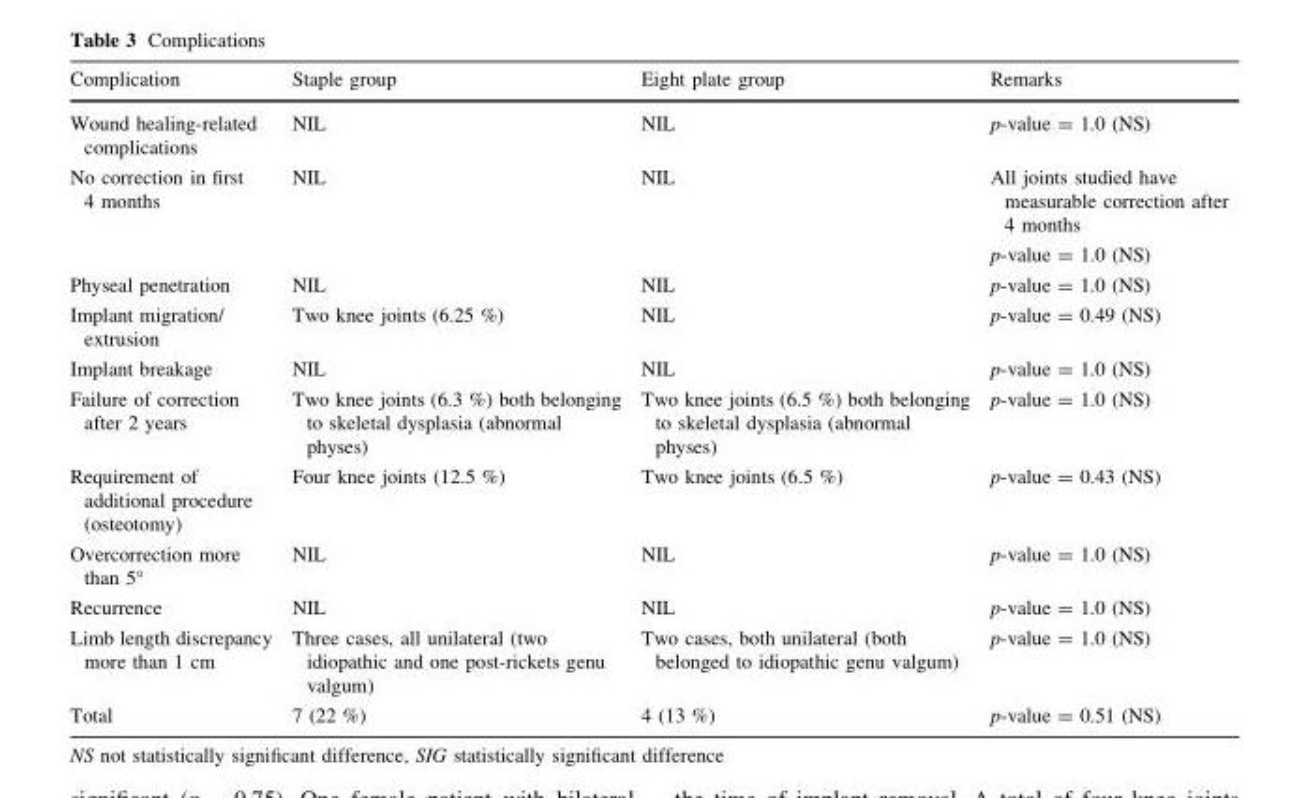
<table><thead><tr><td>Complication</td><td>Staple group</td><td>Eight plate group</td><td>Remarks</td></tr></thead><tbody><tr><td>Wound healing-related complications</td><td>NIL</td><td>NIL</td><td>p-value = 1.0 (NS)</td></tr><tr><td rowspan="2">No correction in first 4 months</td><td rowspan="2">NIL</td><td rowspan="2">NIL</td><td>All joints studied have measurable correction after 4 months</td></tr><tr><td>p-value = 1.0 (NS)</td></tr><tr><td>Physeal penetration</td><td>NIL</td><td>NIL</td><td>p-value = 1.0 (NS)</td></tr><tr><td>Implant migration/ extrusion</td><td>Two knee joints (6.25 %)</td><td>NIL</td><td>p-value = 0.49 (NS)</td></tr><tr><td>Implant breakage</td><td>NIL</td><td>NIL</td><td>p-value = 1.0 (NS)</td></tr><tr><td>Failure of correction after 2 years</td><td>Two knee joints (6.3 %) both belonging to skeletal dysplasia (abnormal physes)</td><td>Two knee joints (6.5 %) both belonging to skeletal dysplasia (abnormal physes)</td><td>p-value = 1.0 (NS)</td></tr><tr><td>Requirement of additional procedure (osteotomy)</td><td>Four knee joints (12.5 %)</td><td>Two knee joints (6.5 %)</td><td>p-value = 0.43 (NS)</td></tr><tr><td>Overcorrection more than 5°</td><td>NIL</td><td>NIL</td><td>p-value = 1.0 (NS)</td></tr><tr><td>Recurrence</td><td>NIL</td><td>NIL</td><td>p-value = 1.0 (NS)</td></tr><tr><td>Limb length discrepancy more than 1 cm</td><td>Three cases, all unilateral (two idiopathic and one post-rickets genu valgum)</td><td>Two cases, both unilateral (both belonged to idiopathic genu valgum)</td><td>p-value = 1.0 (NS)</td></tr><tr><td>Total</td><td>7 (22 %)</td><td>4 (13 %)</td><td>p-value = 0.51 (NS)</td></tr></tbody></table>